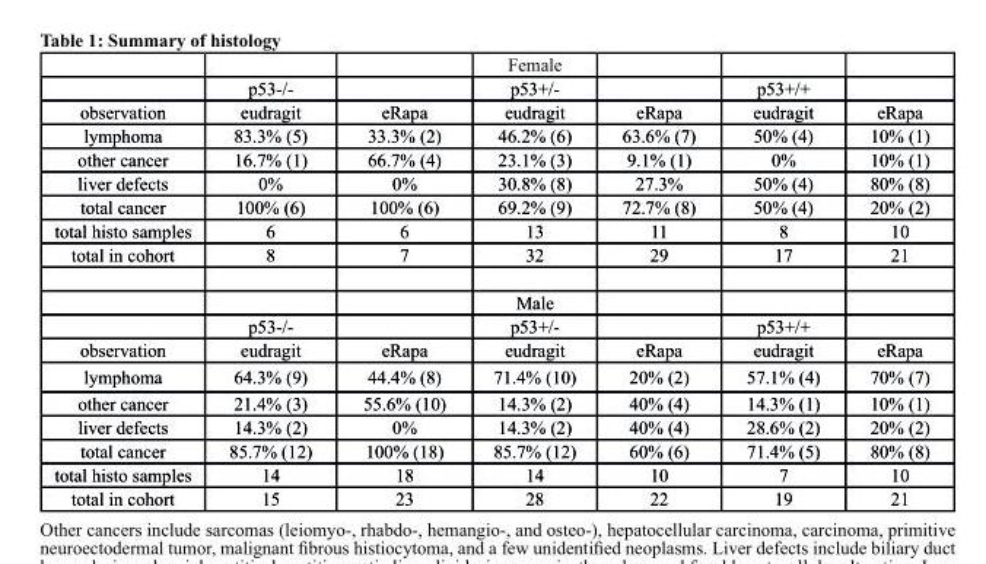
<table><thead><tr><td></td><td></td><td></td><td>Female</td><td></td><td></td><td></td></tr></thead><tbody><tr><td></td><td>p53-/-</td><td></td><td>p53+/-</td><td></td><td>p53+/+</td><td></td></tr><tr><td>observation</td><td>eudragit</td><td>eRapa</td><td>eudragit</td><td>eRapa</td><td>eudragit</td><td>eRapa</td></tr><tr><td>lymphoma</td><td>83.3% (5)</td><td>33.3% (2)</td><td>46.2% (6)</td><td>63.6% (7)</td><td>50% (4)</td><td>10% (1)</td></tr><tr><td>other cancer</td><td>16.7% (1)</td><td>66.7% (4)</td><td>23.1% (3)</td><td>9.1% (1)</td><td>0%</td><td>10% (1)</td></tr><tr><td>liver defects</td><td>0%</td><td>0%</td><td>30.8% (8)</td><td>27.3%</td><td>50% (4)</td><td>80% (8)</td></tr><tr><td>total cancer</td><td>100% (6)</td><td>100% (6)</td><td>69.2% (9)</td><td>72.7% (8)</td><td>50% (4)</td><td>20% (2)</td></tr><tr><td>total histo samples</td><td>6</td><td>6</td><td>13</td><td>11</td><td>8</td><td>10</td></tr><tr><td rowspan="3">total in cohort</td><td>8</td><td>7</td><td>32</td><td>29</td><td>17</td><td>21</td></tr><tr><td></td><td></td><td>Male</td><td></td><td></td><td></td></tr><tr><td>p53-/-</td><td></td><td>p53+/-</td><td></td><td>p53+/+</td><td></td></tr><tr><td>observation</td><td>eudragit</td><td>eRapa</td><td>eudragit</td><td>eRapa</td><td>eudragit</td><td>eRapa</td></tr><tr><td>lymphoma</td><td>64.3% (9)</td><td>44.4% (8)</td><td>71.4% (10)</td><td>20% (2)</td><td>57.1% (4)</td><td>70% (7)</td></tr><tr><td>other cancer</td><td>21.4% (3)</td><td>55.6% (10)</td><td>14.3% (2)</td><td>40% (4)</td><td>14.3% (1)</td><td>10% (1)</td></tr><tr><td>liver defects</td><td>14.3% (2)</td><td>0%</td><td>14.3% (2)</td><td>40% (4)</td><td>28.6% (2)</td><td>20% (2)</td></tr><tr><td>total cancer</td><td>85.7% (12)</td><td>100% (18)</td><td>85.7% (12)</td><td>60% (6)</td><td>71.4% (5)</td><td>80% (8)</td></tr><tr><td>total histo samples</td><td>14</td><td>18</td><td>14</td><td>10</td><td>7</td><td>10</td></tr><tr><td>total in cohort</td><td>15</td><td>23</td><td>28</td><td>22</td><td>19</td><td>21</td></tr></tbody></table>